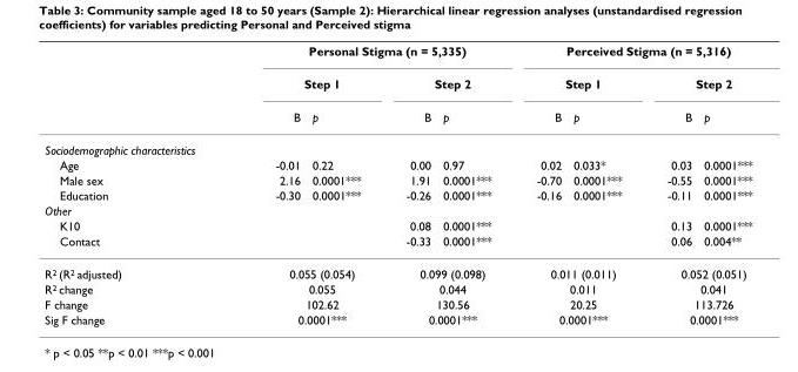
<table><thead><tr><td rowspan="3"></td><td colspan="4">Personal Stigma (n = 5,335)</td><td colspan="4">Perceived Stigma (n = 5,316)</td></tr><tr><td colspan="2">Step 1</td><td colspan="2">Step 2</td><td colspan="2">Step 1</td><td colspan="2">Step 2</td></tr><tr><td>B</td><td>p</td><td>B</td><td>p</td><td>B</td><td>p</td><td>B</td><td>p</td></tr></thead><tbody><tr><td colspan="9">Sociodemographic characteristics</td></tr><tr><td>Age</td><td>-0.01</td><td>0.22</td><td>0.00</td><td>0.97</td><td>0.02</td><td>0.033*</td><td>0.03</td><td>0.0001***</td></tr><tr><td>Male sex</td><td>2.16</td><td>0.0001***</td><td>1.91</td><td>0.0001***</td><td>-0.70</td><td>0.0001***</td><td>-0.55</td><td>0.0001***</td></tr><tr><td>Education</td><td>-0.30</td><td>0.0001***</td><td>-0.26</td><td>0.0001***</td><td>-0.16</td><td>0.0001***</td><td>-0.11</td><td>0.0001***</td></tr><tr><td colspan="9">Other</td></tr><tr><td>K10</td><td></td><td></td><td>0.08</td><td>0.0001***</td><td></td><td></td><td>0.13</td><td>0.0001***</td></tr><tr><td>Contact</td><td></td><td></td><td>-0.33</td><td>0.0001***</td><td></td><td></td><td>0.06</td><td>0.004**</td></tr><tr><td>R<sup>2</sup> (R<sup>2</sup> adjusted)</td><td colspan="2">0.055 (0.054)</td><td colspan="2">0.099 (0.098)</td><td colspan="2">0.011 (0.011)</td><td colspan="2">0.052 (0.051)</td></tr><tr><td>R<sup>2</sup> change</td><td colspan="2">0.055</td><td colspan="2">0.044</td><td colspan="2">0.011</td><td colspan="2">0.041</td></tr><tr><td>F change</td><td colspan="2">102.62</td><td colspan="2">130.56</td><td colspan="2">20.25</td><td colspan="2">113.726</td></tr><tr><td>Sig F change</td><td colspan="2">0.0001***</td><td colspan="2">0.0001***</td><td colspan="2">0.0001***</td><td colspan="2">0.0001***</td></tr></tbody></table>